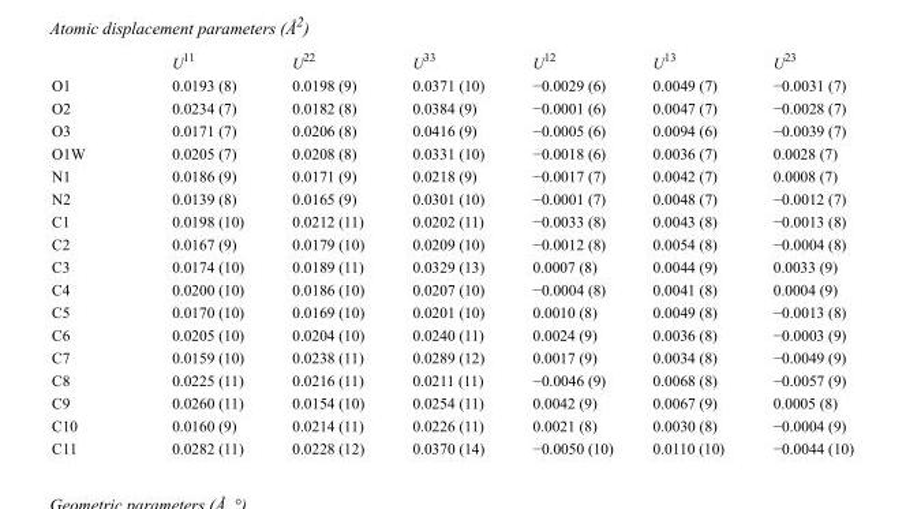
<table><thead><tr><td></td><td>U<sup>11</sup></td><td>U<sup>22</sup></td><td>U<sup>33</sup></td><td>U<sup>12</sup></td><td>U<sup>13</sup></td><td>U<sup>23</sup></td></tr></thead><tbody><tr><td>O1</td><td>0.0193 (8)</td><td>0.0198 (9)</td><td>0.0371 (10)</td><td>−0.0029 (6)</td><td>0.0049 (7)</td><td>−0.0031 (7)</td></tr><tr><td>O2</td><td>0.0234 (7)</td><td>0.0182 (8)</td><td>0.0384 (9)</td><td>−0.0001 (6)</td><td>0.0047 (7)</td><td>−0.0028 (7)</td></tr><tr><td>O3</td><td>0.0171 (7)</td><td>0.0206 (8)</td><td>0.0416 (9)</td><td>−0.0005 (6)</td><td>0.0094 (6)</td><td>−0.0039 (7)</td></tr><tr><td>O1W</td><td>0.0205 (7)</td><td>0.0208 (8)</td><td>0.0331 (10)</td><td>−0.0018 (6)</td><td>0.0036 (7)</td><td>0.0028 (7)</td></tr><tr><td>N1</td><td>0.0186 (9)</td><td>0.0171 (9)</td><td>0.0218 (9)</td><td>−0.0017 (7)</td><td>0.0042 (7)</td><td>0.0008 (7)</td></tr><tr><td>N2</td><td>0.0139 (8)</td><td>0.0165 (9)</td><td>0.0301 (10)</td><td>−0.0001 (7)</td><td>0.0048 (7)</td><td>−0.0012 (7)</td></tr><tr><td>C1</td><td>0.0198 (10)</td><td>0.0212 (11)</td><td>0.0202 (11)</td><td>−0.0033 (8)</td><td>0.0043 (8)</td><td>−0.0013 (8)</td></tr><tr><td>C2</td><td>0.0167 (9)</td><td>0.0179 (10)</td><td>0.0209 (10)</td><td>−0.0012 (8)</td><td>0.0054 (8)</td><td>−0.0004 (8)</td></tr><tr><td>C3</td><td>0.0174 (10)</td><td>0.0189 (11)</td><td>0.0329 (13)</td><td>0.0007 (8)</td><td>0.0044 (9)</td><td>0.0033 (9)</td></tr><tr><td>C4</td><td>0.0200 (10)</td><td>0.0186 (10)</td><td>0.0207 (10)</td><td>−0.0004 (8)</td><td>0.0041 (8)</td><td>0.0004 (9)</td></tr><tr><td>C5</td><td>0.0170 (10)</td><td>0.0169 (10)</td><td>0.0201 (10)</td><td>0.0010 (8)</td><td>0.0049 (8)</td><td>−0.0013 (8)</td></tr><tr><td>C6</td><td>0.0205 (10)</td><td>0.0204 (10)</td><td>0.0240 (11)</td><td>0.0024 (9)</td><td>0.0036 (8)</td><td>−0.0003 (9)</td></tr><tr><td>C7</td><td>0.0159 (10)</td><td>0.0238 (11)</td><td>0.0289 (12)</td><td>0.0017 (9)</td><td>0.0034 (8)</td><td>−0.0049 (9)</td></tr><tr><td>C8</td><td>0.0225 (11)</td><td>0.0216 (11)</td><td>0.0211 (11)</td><td>−0.0046 (9)</td><td>0.0068 (8)</td><td>−0.0057 (9)</td></tr><tr><td>C9</td><td>0.0260 (11)</td><td>0.0154 (10)</td><td>0.0254 (11)</td><td>0.0042 (9)</td><td>0.0067 (9)</td><td>0.0005 (8)</td></tr><tr><td>C10</td><td>0.0160 (9)</td><td>0.0214 (11)</td><td>0.0226 (11)</td><td>0.0021 (8)</td><td>0.0030 (8)</td><td>−0.0004 (9)</td></tr><tr><td>C11</td><td>0.0282 (11)</td><td>0.0228 (12)</td><td>0.0370 (14)</td><td>−0.0050 (10)</td><td>0.0110 (10)</td><td>−0.0044 (10)</td></tr></tbody></table>